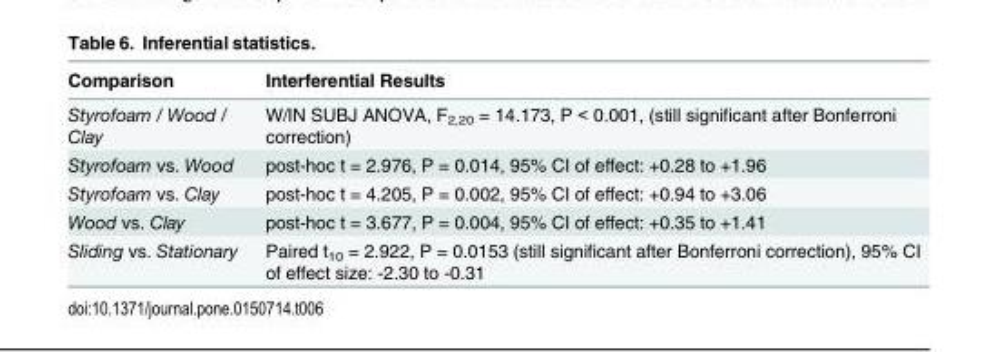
<table><thead><tr><td>Comparison</td><td>Interferential Results</td></tr></thead><tbody><tr><td>Styrofoam / Wood / Clay</td><td>W/IN SUBJ ANOVA, F<sub>2,20</sub> = 14.173, P &lt; 0.001, (still significant after Bonferroni correction)</td></tr><tr><td>Styrofoam vs. Wood</td><td>post-hoc t = 2.976, P = 0.014, 95% CI of effect: +0.28 to +1.96</td></tr><tr><td>Styrofoam vs. Clay</td><td>post-hoc t = 4.205, P = 0.002, 95% CI of effect: +0.94 to +3.06</td></tr><tr><td>Wood vs. Clay</td><td>post-hoc t = 3.677, P = 0.004, 95% CI of effect: +0.35 to +1.41</td></tr><tr><td>Sliding vs. Stationary</td><td>Paired t<sub>10</sub> = 2.922, P = 0.0153 (still significant after Bonferroni correction), 95% CI of effect size: -2.30 to -0.31</td></tr></tbody></table>